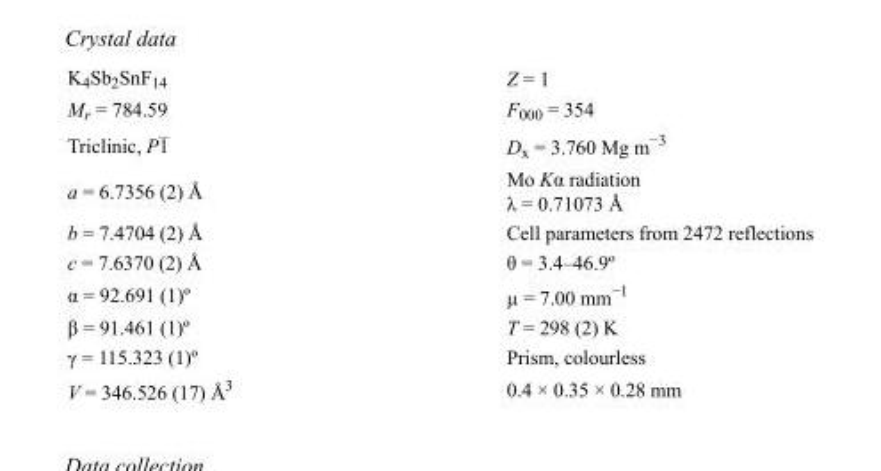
<table><tbody><tr><td>K<sub>4</sub>Sb<sub>2</sub>SnF<sub>14</sub></td><td>Z = 1</td></tr><tr><td>M<sub>r</sub> = 784.59</td><td>F<sub>000</sub> = 354</td></tr><tr><td>Triclinic, P1</td><td>D<sub>x</sub> = 3.760 Mg m<sup>−3</sup></td></tr><tr><td>a = 6.7356 (2) Å</td><td>Mo Kα radiation λ = 0.71073 Å</td></tr><tr><td>b = 7.4704 (2) Å</td><td>Cell parameters from 2472 reflections</td></tr><tr><td>c = 7.6370 (2) Å</td><td>θ = 3.4–46.9º</td></tr><tr><td>α = 92.691 (1)º</td><td>µ = 7.00 mm<sup>−1</sup></td></tr><tr><td>β = 91.461 (1)º</td><td>T = 298 (2) K</td></tr><tr><td>γ = 115.323 (1)º</td><td>Prism, colourless</td></tr><tr><td>V = 346.526 (17) Å<sup>3</sup></td><td>0.4 × 0.35 × 0.28 mm</td></tr></tbody></table>